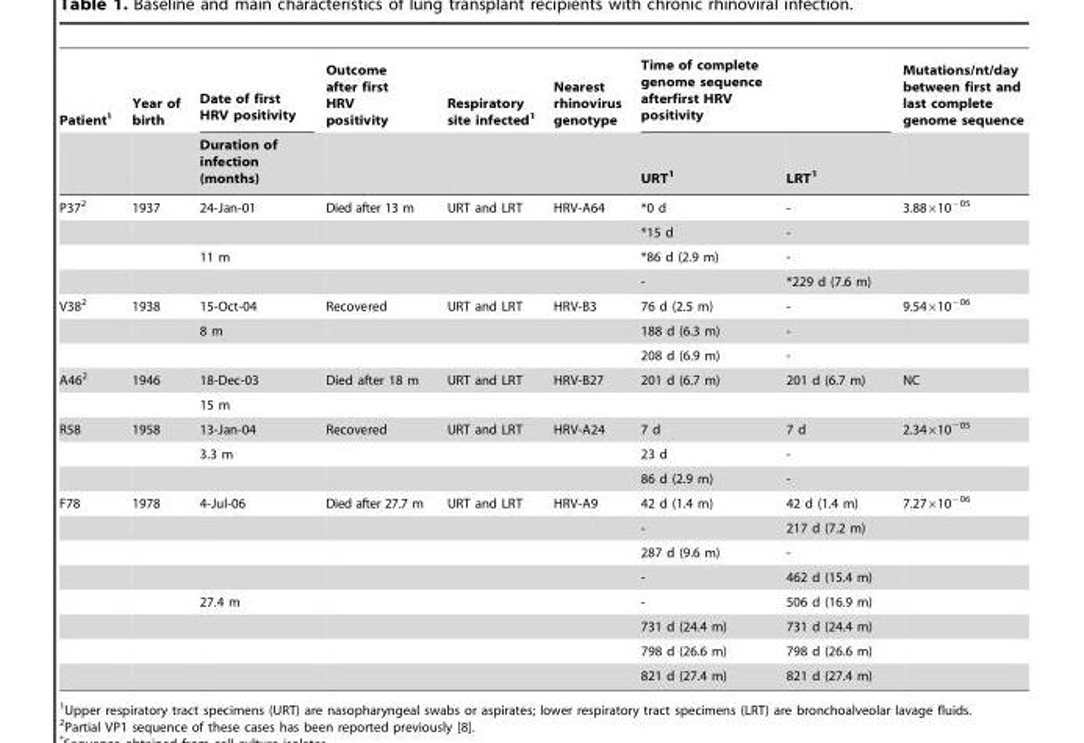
<table><thead><tr><td rowspan="2">Patient§</td><td rowspan="2">Year of birth</td><td rowspan="2">Date of first HRV positivity Duration of infection (months)</td><td rowspan="2">Outcome after first HRV positivity</td><td rowspan="2">Respiratory site infected<sup>1</sup></td><td rowspan="2">Nearest rhinovirus genotype</td><td colspan="2">Time of complete genome sequence afterfirst HRV positivity</td><td rowspan="2">Mutations/nt/day between first and last complete genome sequence</td></tr><tr><td>URT<sup>1</sup></td><td>LRT<sup>1</sup></td></tr></thead><tbody><tr><td rowspan="4">P37<sup>2</sup></td><td>1937</td><td>24-Jan-01</td><td>Died after 13 m</td><td>URT and LRT</td><td>HRV-A64</td><td>*0 d</td><td>-</td><td>3.88×10<sup>−05</sup></td></tr><tr><td></td><td></td><td></td><td></td><td></td><td>*15 d</td><td>-</td><td></td></tr><tr><td></td><td>11 m</td><td></td><td></td><td></td><td>*86 d (2.9 m)</td><td>-</td><td></td></tr><tr><td></td><td></td><td></td><td></td><td></td><td>-</td><td>*229 d (7.6 m)</td><td></td></tr><tr><td rowspan="3">V38<sup>2</sup></td><td>1938</td><td>15-Oct-04</td><td>Recovered</td><td>URT and LRT</td><td>HRV-B3</td><td>76 d (2.5 m)</td><td>-</td><td>9.54×10<sup>−06</sup></td></tr><tr><td></td><td>8 m</td><td></td><td></td><td></td><td>188 d (6.3 m)</td><td>-</td><td></td></tr><tr><td></td><td></td><td></td><td></td><td></td><td>208 d (6.9 m)</td><td>-</td><td></td></tr><tr><td rowspan="2">A46<sup>2</sup></td><td>1946</td><td>18-Dec-03</td><td>Died after 18 m</td><td>URT and LRT</td><td>HRV-B27</td><td>201 d (6.7 m)</td><td>201 d (6.7 m)</td><td>NC</td></tr><tr><td></td><td>15 m</td><td></td><td></td><td></td><td></td><td></td><td></td></tr><tr><td rowspan="3">R58</td><td>1958</td><td>13-Jan-04</td><td>Recovered</td><td>URT and LRT</td><td>HRV-A24</td><td>7 d</td><td>7 d</td><td>2.34×10<sup>−05</sup></td></tr><tr><td></td><td>3.3 m</td><td></td><td></td><td></td><td>23 d</td><td>-</td><td></td></tr><tr><td></td><td></td><td></td><td></td><td></td><td>86 d (2.9 m)</td><td>-</td><td></td></tr><tr><td rowspan="8">F78</td><td>1978</td><td>4-Jul-06</td><td>Died after 27.7 m</td><td>URT and LRT</td><td>HRV-A9</td><td>42 d (1.4 m)</td><td>42 d (1.4 m)</td><td>7.27×10<sup>−06</sup></td></tr><tr><td></td><td></td><td></td><td></td><td></td><td>-</td><td>217 d (7.2 m)</td><td></td></tr><tr><td></td><td></td><td></td><td></td><td></td><td>287 d (9.6 m)</td><td>-</td><td></td></tr><tr><td></td><td></td><td></td><td></td><td></td><td>-</td><td>462 d (15.4 m)</td><td></td></tr><tr><td></td><td>27.4 m</td><td></td><td></td><td></td><td>-</td><td>506 d (16.9 m)</td><td></td></tr><tr><td></td><td></td><td></td><td></td><td></td><td>731 d (24.4 m)</td><td>731 d (24.4 m)</td><td></td></tr><tr><td></td><td></td><td></td><td></td><td></td><td>798 d (26.6 m)</td><td>798 d (26.6 m)</td><td></td></tr><tr><td></td><td></td><td></td><td></td><td></td><td>821 d (27.4 m)</td><td>821 d (27.4 m)</td><td></td></tr></tbody></table>